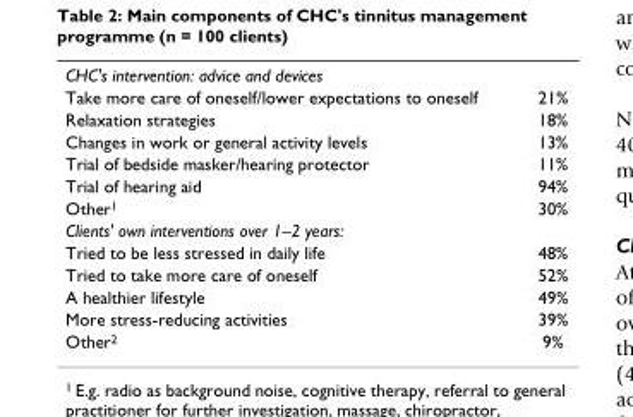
<table><tbody><tr><td colspan="2">CHC&#x27;s intervention: advice and devices</td></tr><tr><td>Take more care of oneself/lower expectations to oneself</td><td>21%</td></tr><tr><td>Relaxation strategies</td><td>18%</td></tr><tr><td>Changes in work or general activity levels</td><td>13%</td></tr><tr><td>Trial of bedside masker/hearing protector</td><td>11%</td></tr><tr><td>Trial of hearing aid</td><td>94%</td></tr><tr><td>Other<sup>1</sup></td><td>30%</td></tr><tr><td colspan="2">Clients&#x27; own interventions over 1–2 years:</td></tr><tr><td>Tried to be less stressed in daily life</td><td>48%</td></tr><tr><td>Tried to take more care of oneself</td><td>52%</td></tr><tr><td>A healthier lifestyle</td><td>49%</td></tr><tr><td>More stress-reducing activities</td><td>39%</td></tr><tr><td>Other<sup>2</sup></td><td>9%</td></tr></tbody></table>